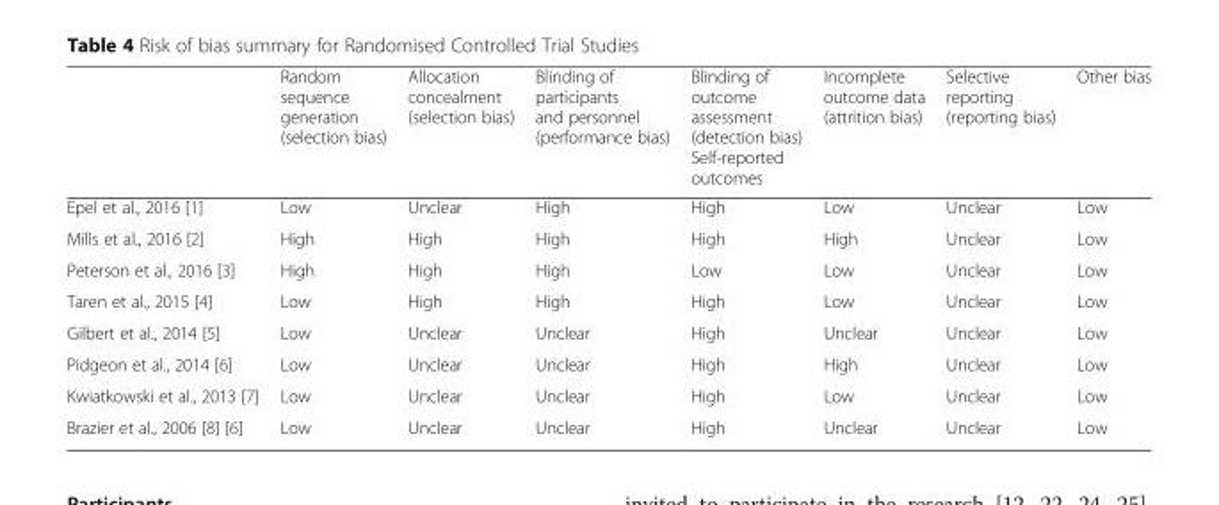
<table><thead><tr><td></td><td>Random sequence generation (selection bias)</td><td>Allocation concealment (selection bias)</td><td>Blinding of participants and personnel (performance bias)</td><td>Blinding of outcome assessment (detection bias) Self-reported outcomes</td><td>Incomplete outcome data (attrition bias)</td><td>Selective reporting (reporting bias)</td><td>Other bias</td></tr></thead><tbody><tr><td>Epel et al., 2016 [1]</td><td>Low</td><td>Unclear</td><td>High</td><td>High</td><td>Low</td><td>Unclear</td><td>Low</td></tr><tr><td>Mills et al., 2016 [2]</td><td>High</td><td>High</td><td>High</td><td>High</td><td>High</td><td>Unclear</td><td>Low</td></tr><tr><td>Peterson et al., 2016 [3]</td><td>High</td><td>High</td><td>High</td><td>Low</td><td>Low</td><td>Unclear</td><td>Low</td></tr><tr><td>Taren et al., 2015 [4]</td><td>Low</td><td>High</td><td>High</td><td>High</td><td>Low</td><td>Unclear</td><td>Low</td></tr><tr><td>Gilbert et al., 2014 [5]</td><td>Low</td><td>Unclear</td><td>Unclear</td><td>High</td><td>Unclear</td><td>Unclear</td><td>Low</td></tr><tr><td>Pidgeon et al., 2014 [6]</td><td>Low</td><td>Unclear</td><td>Unclear</td><td>High</td><td>High</td><td>Unclear</td><td>Low</td></tr><tr><td>Kwiatkowski et al., 2013 [7]</td><td>Low</td><td>Unclear</td><td>Unclear</td><td>High</td><td>Low</td><td>Unclear</td><td>Low</td></tr><tr><td>Brazier et al., 2006 [8] [6]</td><td>Low</td><td>Unclear</td><td>Unclear</td><td>High</td><td>Unclear</td><td>Unclear</td><td>Low</td></tr></tbody></table>